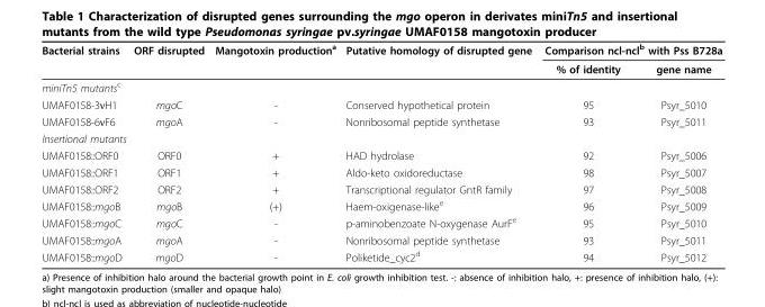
<table><thead><tr><td rowspan="2">Bacterial strains</td><td rowspan="2">ORF disrupted</td><td rowspan="2">Mangotoxin production<sup>a</sup></td><td rowspan="2">Putative homology of disrupted gene</td><td colspan="2">Comparison ncl-ncl<sup>b</sup> with Pss B728a</td></tr><tr><td>% of identity</td><td>gene name</td></tr></thead><tbody><tr><td colspan="6">miniTn5 mutants<sup>c</sup></td></tr><tr><td>UMAF0158-3νH1</td><td>mgoC</td><td>-</td><td>Conserved hypothetical protein</td><td>95</td><td>Psyr_5010</td></tr><tr><td>UMAF0158-6νF6</td><td>mgoA</td><td>-</td><td>Nonribosomal peptide synthetase</td><td>93</td><td>Psyr_5011</td></tr><tr><td colspan="6">Insertional mutants</td></tr><tr><td>UMAF0158::ORF0</td><td>ORF0</td><td>+</td><td>HAD hydrolase</td><td>92</td><td>Psyr_5006</td></tr><tr><td>UMAF0158::ORF1</td><td>ORF1</td><td>+</td><td>Aldo-keto oxidoreductase</td><td>98</td><td>Psyr_5007</td></tr><tr><td>UMAF0158::ORF2</td><td>ORF2</td><td>+</td><td>Transcriptional regulator GntR family</td><td>97</td><td>Psyr_5008</td></tr><tr><td>UMAF0158::mgoB</td><td>mgoB</td><td>(+)</td><td>Haem-oxigenase-like<sup>e</sup></td><td>96</td><td>Psyr_5009</td></tr><tr><td>UMAF0158::mgoC</td><td>mgoC</td><td>-</td><td>p-aminobenzoate N-oxygenase AurF<sup>e</sup></td><td>95</td><td>Psyr_5010</td></tr><tr><td>UMAF0158::mgoA</td><td>mgoA</td><td>-</td><td>Nonribosomal peptide synthetase</td><td>93</td><td>Psyr_5011</td></tr><tr><td>UMAF0158::mgoD</td><td>mgoD</td><td>-</td><td>Poliketide_cyc2<sup>d</sup></td><td>94</td><td>Psyr_5012</td></tr></tbody></table>